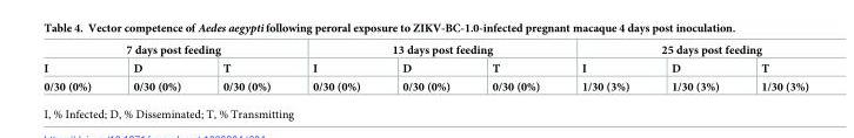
<table><thead><tr><td colspan="3">7 days post feeding</td><td colspan="3">13 days post feeding</td><td colspan="3">25 days post feeding</td></tr><tr><td>I</td><td>D</td><td>T</td><td>I</td><td>D</td><td>T</td><td>I</td><td>D</td><td>T</td></tr></thead><tbody><tr><td>0/30 (0%)</td><td>0/30 (0%)</td><td>0/30 (0%)</td><td>0/30 (0%)</td><td>0/30 (0%)</td><td>0/30 (0%)</td><td>1/30 (3%)</td><td>1/30 (3%)</td><td>1/30 (3%)</td></tr></tbody></table>